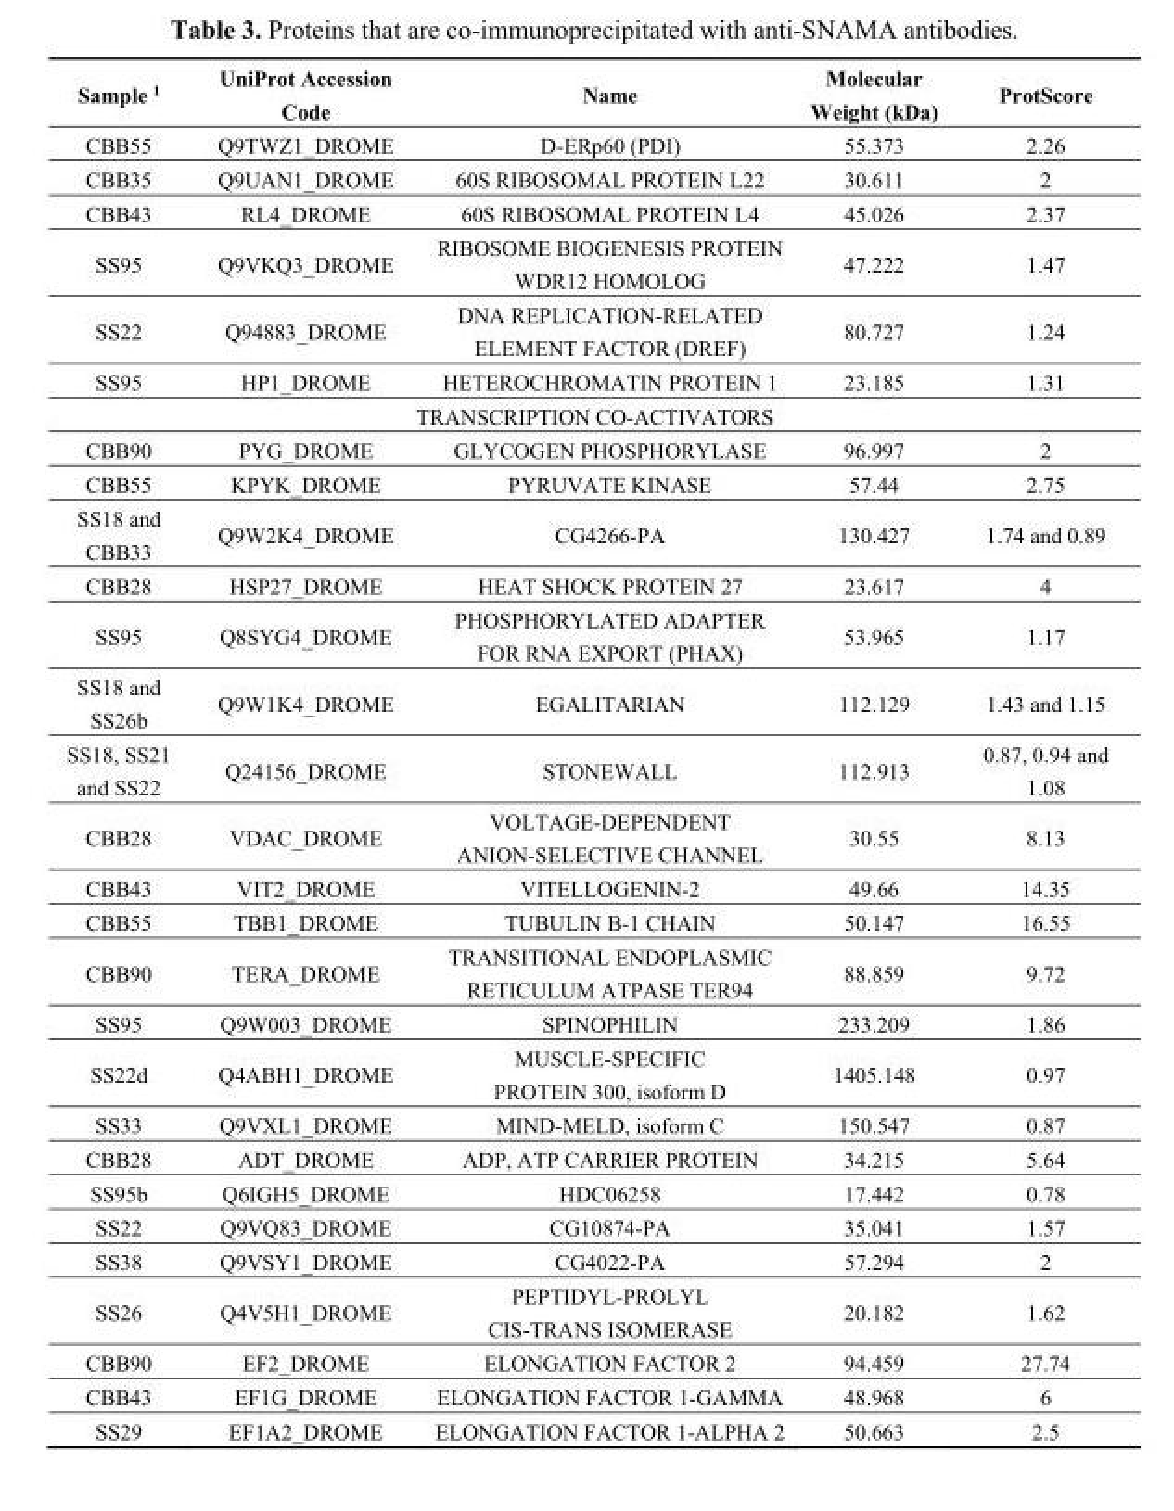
<table><thead><tr><td>Sample <sup>1</sup></td><td>UniProt Accession Code</td><td>Name</td><td>Molecular Weight (kDa)</td><td>ProtScore</td></tr></thead><tbody><tr><td>CBB55</td><td>Q9TWZ1_DROME</td><td>D-ERp60 (PDI)</td><td>55.373</td><td>2.26</td></tr><tr><td>CBB35</td><td>Q9UAN1_DROME</td><td>60S RIBOSOMAL PROTEIN L22</td><td>30.611</td><td>2</td></tr><tr><td>CBB43</td><td>RL4_DROME</td><td>60S RIBOSOMAL PROTEIN L4</td><td>45.026</td><td>2.37</td></tr><tr><td>SS95</td><td>Q9VKQ3_DROME</td><td>RIBOSOME BIOGENESIS PROTEIN WDR12 HOMOLOG</td><td>47.222</td><td>1.47</td></tr><tr><td>SS22</td><td>Q94883_DROME</td><td>DNA REPLICATION-RELATED ELEMENT FACTOR (DREF)</td><td>80.727</td><td>1.24</td></tr><tr><td>SS95</td><td>HP1_DROME</td><td>HETEROCHROMATIN PROTEIN 1</td><td>23.185</td><td>1.31</td></tr><tr><td colspan="5">TRANSCRIPTION CO-ACTIVATORS</td></tr><tr><td>CBB90</td><td>PYG_DROME</td><td>GLYCOGEN PHOSPHORYLASE</td><td>96.997</td><td>2</td></tr><tr><td>CBB55</td><td>KPYK_DROME</td><td>PYRUVATE KINASE</td><td>57.44</td><td>2.75</td></tr><tr><td>SS18 and CBB33</td><td>Q9W2K4_DROME</td><td>CG4266-PA</td><td>130.427</td><td>1.74 and 0.89</td></tr><tr><td>CBB28</td><td>HSP27_DROME</td><td>HEAT SHOCK PROTEIN 27</td><td>23.617</td><td>4</td></tr><tr><td>SS95</td><td>Q8SYG4_DROME</td><td>PHOSPHORYLATED ADAPTER FOR RNA EXPORT (PHAX)</td><td>53.965</td><td>1.17</td></tr><tr><td>SS18 and SS26b</td><td>Q9W1K4_DROME</td><td>EGALITARIAN</td><td>112.129</td><td>1.43 and 1.15</td></tr><tr><td>SS18, SS21 and SS22</td><td>Q24156_DROME</td><td>STONEWALL</td><td>112.913</td><td>0.87, 0.94 and 1.08</td></tr><tr><td>CBB28</td><td>VDAC_DROME</td><td>VOLTAGE-DEPENDENT ANION-SELECTIVE CHANNEL</td><td>30.55</td><td>8.13</td></tr><tr><td>CBB43</td><td>VIT2_DROME</td><td>VITELLOGENIN-2</td><td>49.66</td><td>14.35</td></tr><tr><td>CBB55</td><td>TBB1_DROME</td><td>TUBULIN Β-1 CHAIN</td><td>50.147</td><td>16.55</td></tr><tr><td>CBB90</td><td>TERA_DROME</td><td>TRANSITIONAL ENDOPLASMIC RETICULUM ATPASE TER94</td><td>88.859</td><td>9.72</td></tr><tr><td>SS95</td><td>Q9W003_DROME</td><td>SPINOPHILIN</td><td>233.209</td><td>1.86</td></tr><tr><td>SS22d</td><td>Q4ABH1_DROME</td><td>MUSCLE-SPECIFIC PROTEIN 300, isoform D</td><td>1405.148</td><td>0.97</td></tr><tr><td>SS33</td><td>Q9VXL1_DROME</td><td>MIND-MELD, isoform C</td><td>150.547</td><td>0.87</td></tr><tr><td>CBB28</td><td>ADT_DROME</td><td>ADP, ATP CARRIER PROTEIN</td><td>34.215</td><td>5.64</td></tr><tr><td>SS95b</td><td>Q6IGH5_DROME</td><td>HDC06258</td><td>17.442</td><td>0.78</td></tr><tr><td>SS22</td><td>Q9VQ83_DROME</td><td>CG10874-PA</td><td>35.041</td><td>1.57</td></tr><tr><td>SS38</td><td>Q9VSY1_DROME</td><td>CG4022-PA</td><td>57.294</td><td>2</td></tr><tr><td>SS26</td><td>Q4V5H1_DROME</td><td>PEPTIDYL-PROLYL CIS-TRANS ISOMERASE</td><td>20.182</td><td>1.62</td></tr><tr><td>CBB90</td><td>EF2_DROME</td><td>ELONGATION FACTOR 2</td><td>94.459</td><td>27.74</td></tr><tr><td>CBB43</td><td>EF1G_DROME</td><td>ELONGATION FACTOR 1-GAMMA</td><td>48.968</td><td>6</td></tr><tr><td>SS29</td><td>EF1A2_DROME</td><td>ELONGATION FACTOR 1-ALPHA 2</td><td>50.663</td><td>2.5</td></tr></tbody></table>